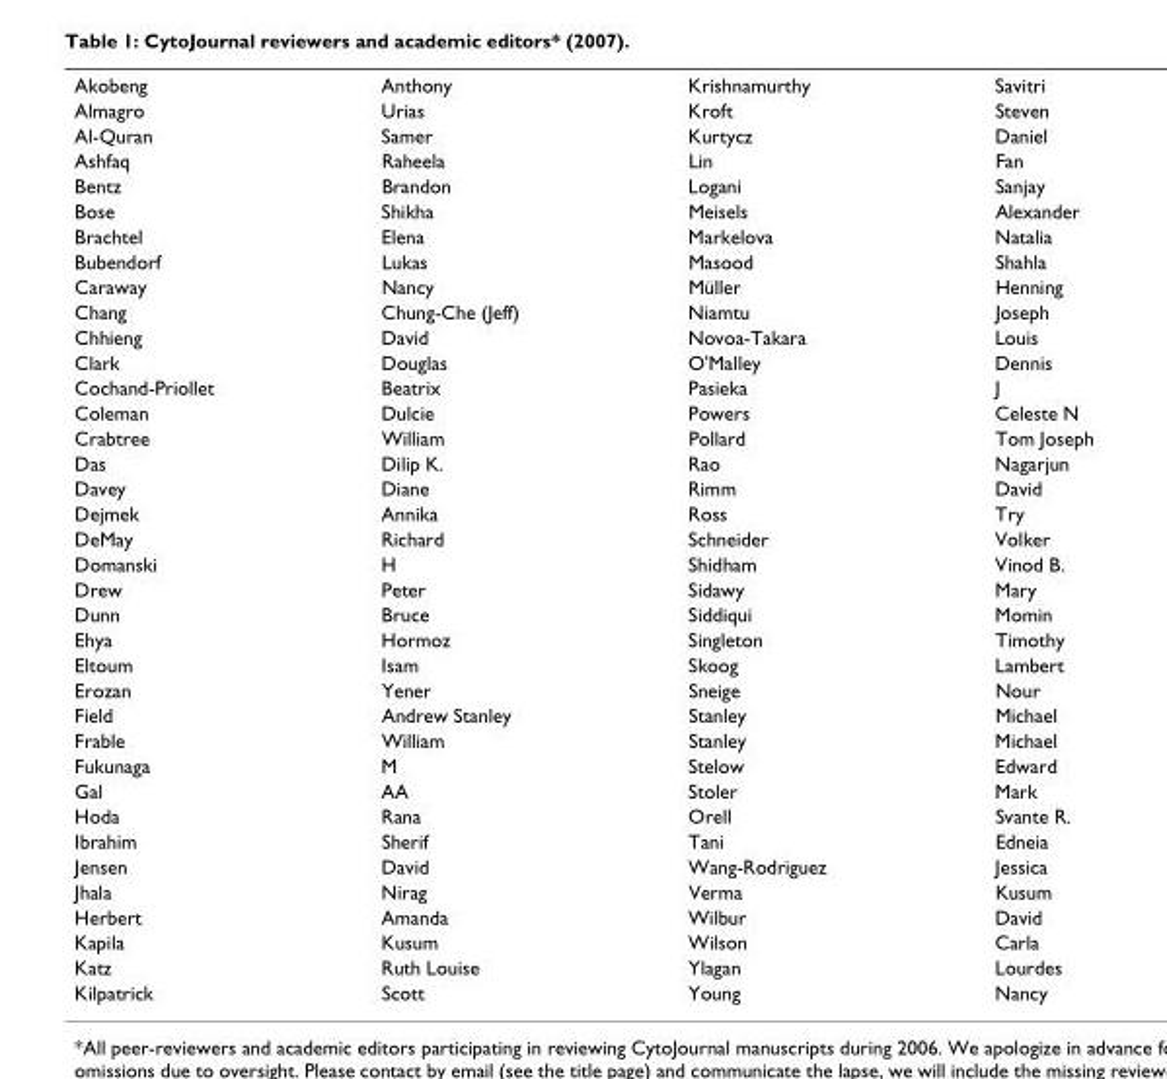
<table><tbody><tr><td>Akobeng</td><td>Anthony</td><td>Krishnamurthy</td><td>Savitri</td></tr><tr><td>Almagro</td><td>Urias</td><td>Kroft</td><td>Steven</td></tr><tr><td>Al-Quran</td><td>Samer</td><td>Kurtycz</td><td>Daniel</td></tr><tr><td>Ashfaq</td><td>Raheela</td><td>Lin</td><td>Fan</td></tr><tr><td>Bentz</td><td>Brandon</td><td>Logani</td><td>Sanjay</td></tr><tr><td>Bose</td><td>Shikha</td><td>Meisels</td><td>Alexander</td></tr><tr><td>Brachtel</td><td>Elena</td><td>Markelova</td><td>Natalia</td></tr><tr><td>Bubendorf</td><td>Lukas</td><td>Masood</td><td>Shahla</td></tr><tr><td>Caraway</td><td>Nancy</td><td>Müller</td><td>Henning</td></tr><tr><td>Chang</td><td>Chung-Che (Jeff)</td><td>Niamtu</td><td>Joseph</td></tr><tr><td>Chhieng</td><td>David</td><td>Novoa-Takara</td><td>Louis</td></tr><tr><td>Clark</td><td>Douglas</td><td>O&#x27;Malley</td><td>Dennis</td></tr><tr><td>Cochand-Priollet</td><td>Beatrix</td><td>Pasieka</td><td>J</td></tr><tr><td>Coleman</td><td>Dulcie</td><td>Powers</td><td>Celeste N</td></tr><tr><td>Crabtree</td><td>William</td><td>Pollard</td><td>Tom Joseph</td></tr><tr><td>Das</td><td>Dilip K.</td><td>Rao</td><td>Nagarjun</td></tr><tr><td>Davey</td><td>Diane</td><td>Rimm</td><td>David</td></tr><tr><td>Dejmek</td><td>Annika</td><td>Ross</td><td>Try</td></tr><tr><td>DeMay</td><td>Richard</td><td>Schneider</td><td>Volker</td></tr><tr><td>Domanski</td><td>H</td><td>Shidham</td><td>Vinod B.</td></tr><tr><td>Drew</td><td>Peter</td><td>Sidawy</td><td>Mary</td></tr><tr><td>Dunn</td><td>Bruce</td><td>Siddiqui</td><td>Momin</td></tr><tr><td>Ehya</td><td>Hormoz</td><td>Singleton</td><td>Timothy</td></tr><tr><td>Eltoum</td><td>Isam</td><td>Skoog</td><td>Lambert</td></tr><tr><td>Erozan</td><td>Yener</td><td>Sneige</td><td>Nour</td></tr><tr><td>Field</td><td>Andrew Stanley</td><td>Stanley</td><td>Michael</td></tr><tr><td>Frable</td><td>William</td><td>Stanley</td><td>Michael</td></tr><tr><td>Fukunaga</td><td>M</td><td>Stelow</td><td>Edward</td></tr><tr><td>Gal</td><td>AA</td><td>Stoler</td><td>Mark</td></tr><tr><td>Hoda</td><td>Rana</td><td>Orell</td><td>Svante R.</td></tr><tr><td>Ibrahim</td><td>Sherif</td><td>Tani</td><td>Edneia</td></tr><tr><td>Jensen</td><td>David</td><td>Wang-Rodriguez</td><td>Jessica</td></tr><tr><td>Jhala</td><td>Nirag</td><td>Verma</td><td>Kusum</td></tr><tr><td>Herbert</td><td>Amanda</td><td>Wilbur</td><td>David</td></tr><tr><td>Kapila</td><td>Kusum</td><td>Wilson</td><td>Carla</td></tr><tr><td>Katz</td><td>Ruth Louise</td><td>Ylagan</td><td>Lourdes</td></tr><tr><td>Kilpatrick</td><td>Scott</td><td>Young</td><td>Nancy</td></tr></tbody></table>